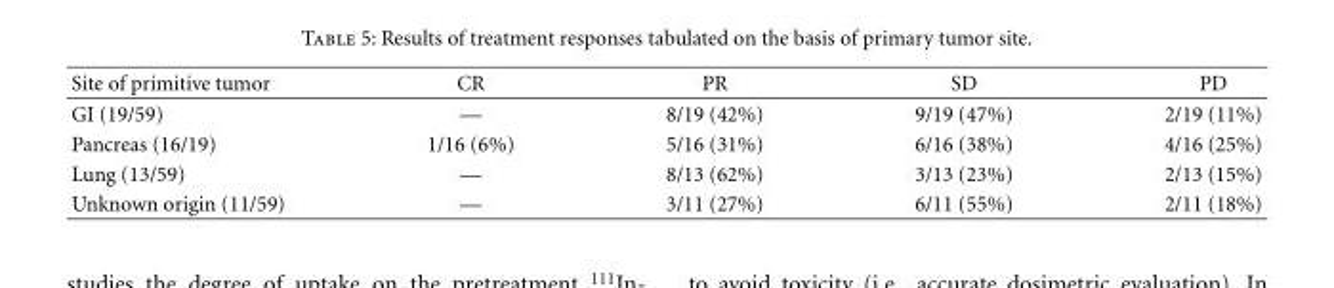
<table><thead><tr><td>Site of primitive tumor</td><td>CR</td><td>PR</td><td>SD</td><td>PD</td></tr></thead><tbody><tr><td>GI (19/59)</td><td>—</td><td>8/19 (42%)</td><td>9/19 (47%)</td><td>2/19 (11%)</td></tr><tr><td>Pancreas (16/19)</td><td>1/16 (6%)</td><td>5/16 (31%)</td><td>6/16 (38%)</td><td>4/16 (25%)</td></tr><tr><td>Lung (13/59)</td><td>—</td><td>8/13 (62%)</td><td>3/13 (23%)</td><td>2/13 (15%)</td></tr><tr><td>Unknown origin (11/59)</td><td>—</td><td>3/11 (27%)</td><td>6/11 (55%)</td><td>2/11 (18%)</td></tr></tbody></table>